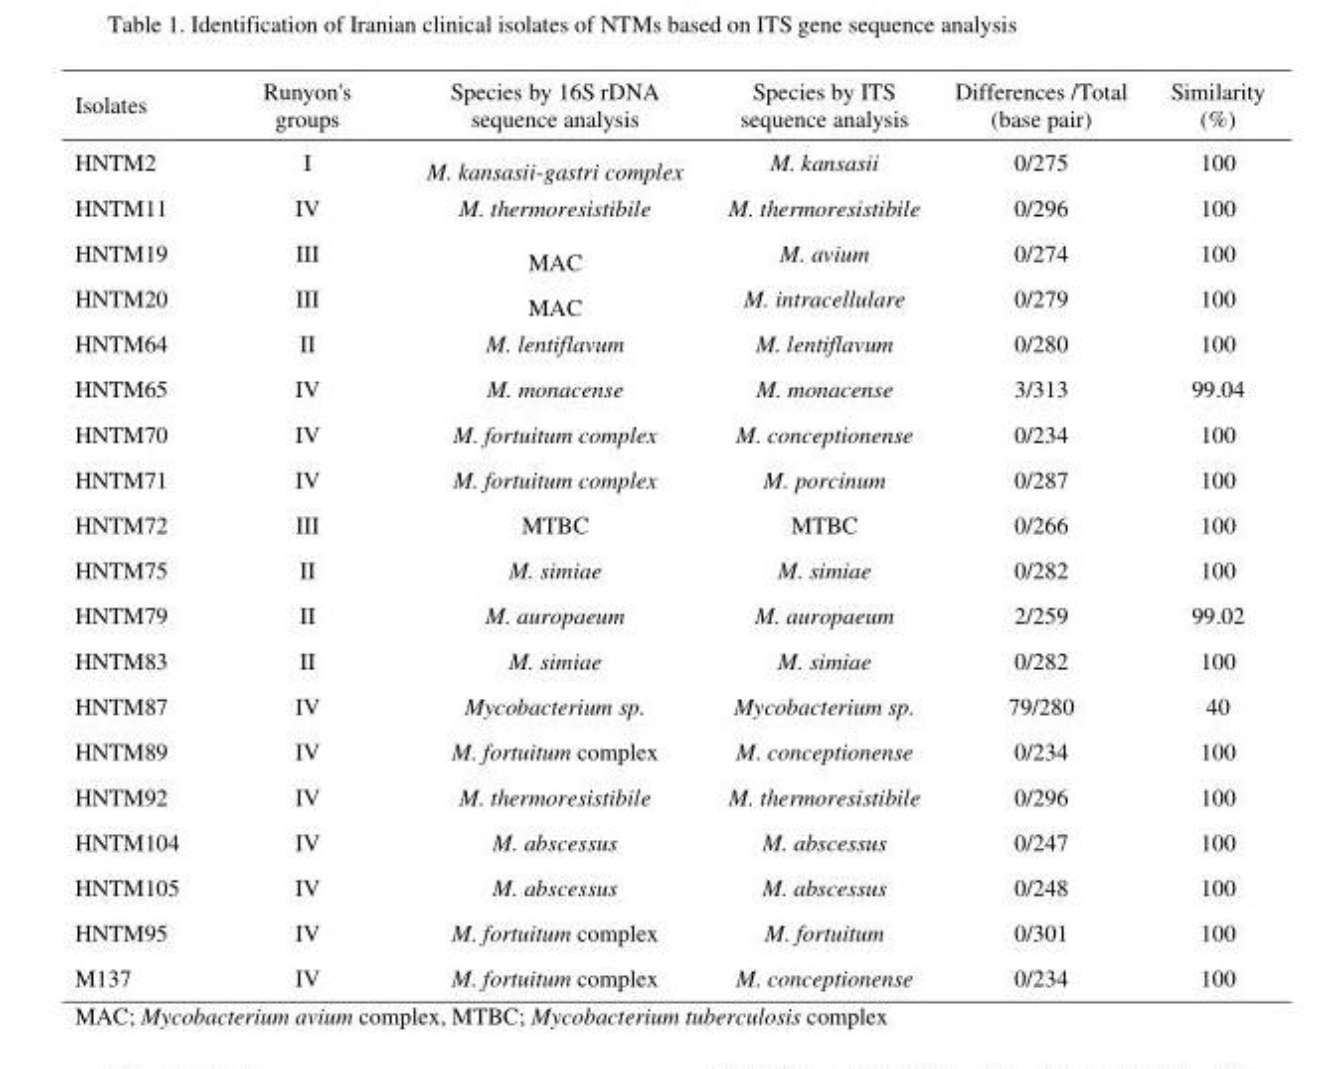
<table><thead><tr><td>Isolates</td><td>Runyon&#x27;s groups</td><td>Species by 16S rDNA sequence analysis</td><td>Species by ITS sequence analysis</td><td>Differences /Total (base pair)</td><td>Similarity (%)</td></tr></thead><tbody><tr><td>HNTM2</td><td>I</td><td>M. kansasii-gastri complex</td><td>M. kansasii</td><td>0/275</td><td>100</td></tr><tr><td>HNTM11</td><td>IV</td><td>M. thermoresistibile</td><td>M. thermoresistibile</td><td>0/296</td><td>100</td></tr><tr><td>HNTM19</td><td>III</td><td>MAC</td><td>M. avium</td><td>0/274</td><td>100</td></tr><tr><td>HNTM20</td><td>III</td><td>MAC</td><td>M. intracellulare</td><td>0/279</td><td>100</td></tr><tr><td>HNTM64</td><td>II</td><td>M. lentiflavum</td><td>M. lentiflavum</td><td>0/280</td><td>100</td></tr><tr><td>HNTM65</td><td>IV</td><td>M. monacense</td><td>M. monacense</td><td>3/313</td><td>99.04</td></tr><tr><td>HNTM70</td><td>IV</td><td>M. fortuitum complex</td><td>M. conceptionense</td><td>0/234</td><td>100</td></tr><tr><td>HNTM71</td><td>IV</td><td>M. fortuitum complex</td><td>M. porcinum</td><td>0/287</td><td>100</td></tr><tr><td>HNTM72</td><td>III</td><td>MTBC</td><td>MTBC</td><td>0/266</td><td>100</td></tr><tr><td>HNTM75</td><td>II</td><td>M. simiae</td><td>M. simiae</td><td>0/282</td><td>100</td></tr><tr><td>HNTM79</td><td>II</td><td>M. auropaeum</td><td>M. auropaeum</td><td>2/259</td><td>99.02</td></tr><tr><td>HNTM83</td><td>II</td><td>M. simiae</td><td>M. simiae</td><td>0/282</td><td>100</td></tr><tr><td>HNTM87</td><td>IV</td><td>Mycobacterium sp.</td><td>Mycobacterium sp.</td><td>79/280</td><td>40</td></tr><tr><td>HNTM89</td><td>IV</td><td>M. fortuitum complex</td><td>M. conceptionense</td><td>0/234</td><td>100</td></tr><tr><td>HNTM92</td><td>IV</td><td>M. thermoresistibile</td><td>M. thermoresistibile</td><td>0/296</td><td>100</td></tr><tr><td>HNTM104</td><td>IV</td><td>M. abscessus</td><td>M. abscessus</td><td>0/247</td><td>100</td></tr><tr><td>HNTM105</td><td>IV</td><td>M. abscessus</td><td>M. abscessus</td><td>0/248</td><td>100</td></tr><tr><td>HNTM95</td><td>IV</td><td>M. fortuitum complex</td><td>M. fortuitum</td><td>0/301</td><td>100</td></tr><tr><td>M137</td><td>IV</td><td>M. fortuitum complex</td><td>M. conceptionense</td><td>0/234</td><td>100</td></tr></tbody></table>